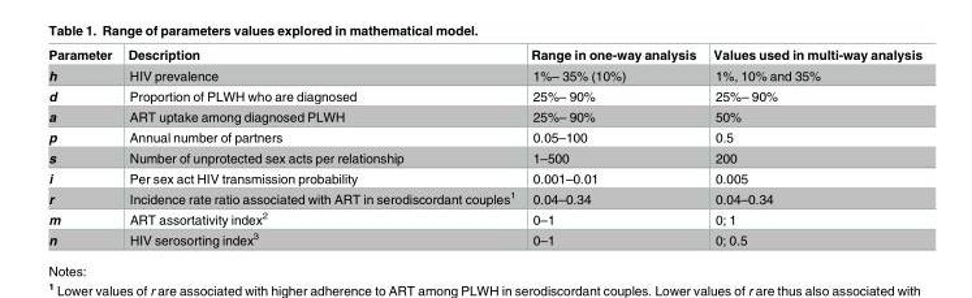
<table><thead><tr><td>Parameter</td><td>Description</td><td>Range in one-way analysis</td><td>Values used in multi-way analysis</td></tr></thead><tbody><tr><td>h</td><td>HIV prevalence</td><td>1%– 35% (10%)</td><td>1%, 10% and 35%</td></tr><tr><td>d</td><td>Proportion of PLWH who are diagnosed</td><td>25%– 90%</td><td>25%– 90%</td></tr><tr><td>a</td><td>ART uptake among diagnosed PLWH</td><td>25%– 90%</td><td>50%</td></tr><tr><td>p</td><td>Annual number of partners</td><td>0.05–100</td><td>0.5</td></tr><tr><td>s</td><td>Number of unprotected sex acts per relationship</td><td>1–500</td><td>200</td></tr><tr><td>i</td><td>Per sex act HIV transmission probability</td><td>0.001–0.01</td><td>0.005</td></tr><tr><td>r</td><td>Incidence rate ratio associated with ART in serodiscordant couples<sup>1</sup></td><td>0.04–0.34</td><td>0.04–0.34</td></tr><tr><td>m</td><td>ART assortativity index<sup>2</sup></td><td>0–1</td><td>0; 1</td></tr><tr><td>n</td><td>HIV serosorting index<sup>3</sup></td><td>0–1</td><td>0; 0.5</td></tr></tbody></table>